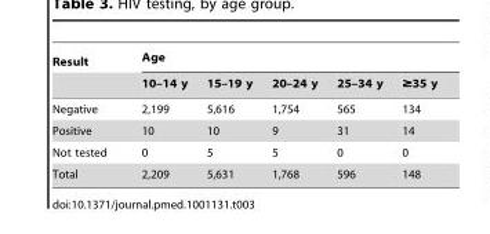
<table><thead><tr><td rowspan="2">Result</td><td colspan="5">Age</td></tr><tr><td>10–14 y</td><td>15–19 y</td><td>20–24 y</td><td>25–34 y</td><td>≥35 y</td></tr></thead><tbody><tr><td>Negative</td><td>2,199</td><td>5,616</td><td>1,754</td><td>565</td><td>134</td></tr><tr><td>Positive</td><td>10</td><td>10</td><td>9</td><td>31</td><td>14</td></tr><tr><td>Not tested</td><td>0</td><td>5</td><td>5</td><td>0</td><td>0</td></tr><tr><td>Total</td><td>2,209</td><td>5,631</td><td>1,768</td><td>596</td><td>148</td></tr></tbody></table>